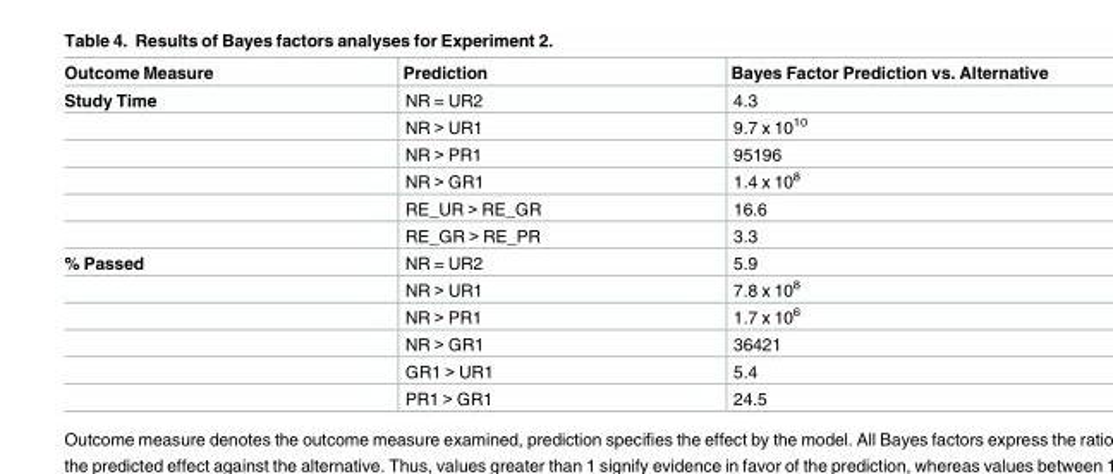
<table><thead><tr><td>Outcome Measure</td><td>Prediction</td><td>Bayes Factor Prediction vs. Alternative</td></tr></thead><tbody><tr><td rowspan="6">Study Time</td><td>NR = UR2</td><td>4.3</td></tr><tr><td>NR &gt; UR1</td><td>9.7 x 10<sup>10</sup></td></tr><tr><td>NR &gt; PR1</td><td>95196</td></tr><tr><td>NR &gt; GR1</td><td>1.4 x 10<sup>8</sup></td></tr><tr><td>RE_UR &gt; RE_GR</td><td>16.6</td></tr><tr><td>RE_GR &gt; RE_PR</td><td>3.3</td></tr><tr><td rowspan="6">% Passed</td><td>NR = UR2</td><td>5.9</td></tr><tr><td>NR &gt; UR1</td><td>7.8 x 10<sup>8</sup></td></tr><tr><td>NR &gt; PR1</td><td>1.7 x 10<sup>6</sup></td></tr><tr><td>NR &gt; GR1</td><td>36421</td></tr><tr><td>GR1 &gt; UR1</td><td>5.4</td></tr><tr><td>PR1 &gt; GR1</td><td>24.5</td></tr></tbody></table>